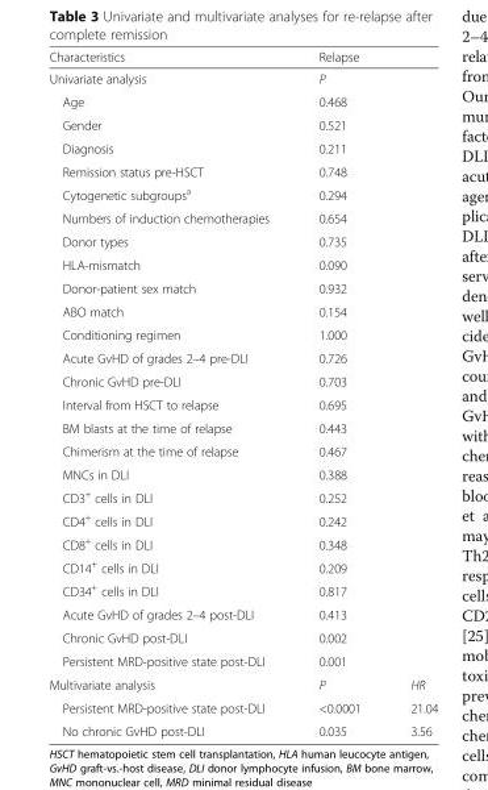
<table><thead><tr><td>Characteristics</td><td colspan="2">Relapse</td></tr></thead><tbody><tr><td>Univariate analysis</td><td colspan="2">P</td></tr><tr><td>Age</td><td colspan="2">0.468</td></tr><tr><td>Gender</td><td colspan="2">0.521</td></tr><tr><td>Diagnosis</td><td colspan="2">0.211</td></tr><tr><td>Remission status pre-HSCT</td><td colspan="2">0.748</td></tr><tr><td>Cytogenetic subgroups<sup>a</sup></td><td colspan="2">0.294</td></tr><tr><td>Numbers of induction chemotherapies</td><td colspan="2">0.654</td></tr><tr><td>Donor types</td><td colspan="2">0.735</td></tr><tr><td>HLA-mismatch</td><td colspan="2">0.090</td></tr><tr><td>Donor-patient sex match</td><td colspan="2">0.932</td></tr><tr><td>ABO match</td><td colspan="2">0.154</td></tr><tr><td>Conditioning regimen</td><td colspan="2">1.000</td></tr><tr><td>Acute GvHD of grades 2–4 pre-DLI</td><td colspan="2">0.726</td></tr><tr><td>Chronic GvHD pre-DLI</td><td colspan="2">0.703</td></tr><tr><td>Interval from HSCT to relapse</td><td colspan="2">0.695</td></tr><tr><td>BM blasts at the time of relapse</td><td colspan="2">0.443</td></tr><tr><td>Chimerism at the time of relapse</td><td colspan="2">0.467</td></tr><tr><td>MNCs in DLI</td><td colspan="2">0.388</td></tr><tr><td>CD3<sup>+</sup> cells in DLI</td><td colspan="2">0.252</td></tr><tr><td>CD4<sup>+</sup> cells in DLI</td><td colspan="2">0.242</td></tr><tr><td>CD8<sup>+</sup> cells in DLI</td><td colspan="2">0.348</td></tr><tr><td>CD14<sup>+</sup> cells in DLI</td><td colspan="2">0.209</td></tr><tr><td>CD34<sup>+</sup> cells in DLI</td><td colspan="2">0.817</td></tr><tr><td>Acute GvHD of grades 2–4 post-DLI</td><td colspan="2">0.413</td></tr><tr><td>Chronic GvHD post-DLI</td><td colspan="2">0.002</td></tr><tr><td>Persistent MRD-positive state post-DLI</td><td colspan="2">0.001</td></tr><tr><td>Multivariate analysis</td><td>P</td><td>HR</td></tr><tr><td>Persistent MRD-positive state post-DLI</td><td>&lt;0.0001</td><td>21.04</td></tr><tr><td>No chronic GvHD post-DLI</td><td>0.035</td><td>3.56</td></tr></tbody></table>